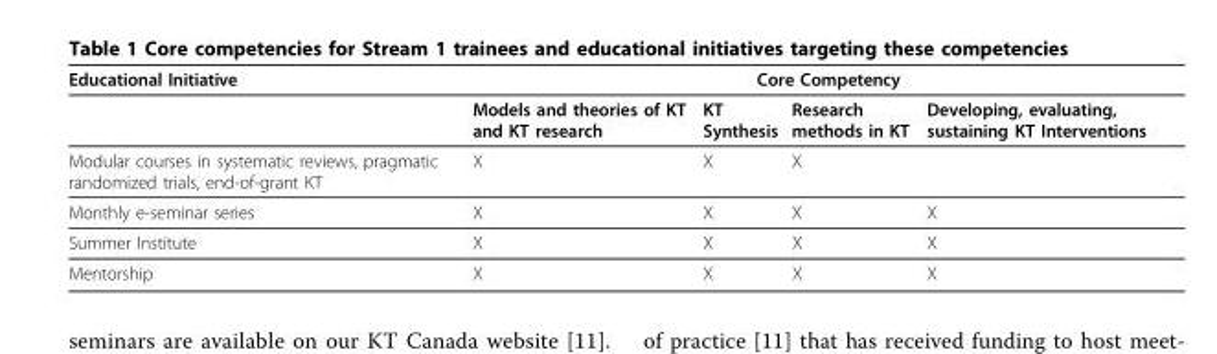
<table><thead><tr><td rowspan="2">Educational Initiative</td><td colspan="4">Core Competency</td></tr><tr><td>Models and theories of KT and KT research</td><td>KT Synthesis</td><td>Research methods in KT</td><td>Developing, evaluating, sustaining KT Interventions</td></tr></thead><tbody><tr><td>Modular courses in systematic reviews, pragmatic randomized trials, end-of-grant KT</td><td>X</td><td>X</td><td>X</td><td></td></tr><tr><td>Monthly e-seminar series</td><td>X</td><td>X</td><td>X</td><td>X</td></tr><tr><td>Summer Institute</td><td>X</td><td>X</td><td>X</td><td>X</td></tr><tr><td>Mentorship</td><td>X</td><td>X</td><td>X</td><td>X</td></tr></tbody></table>